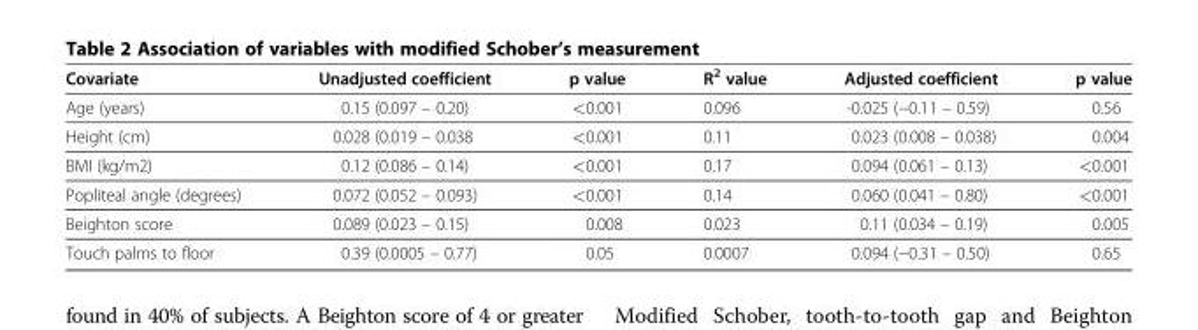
<table><thead><tr><td>Covariate</td><td>Unadjusted coefficient</td><td>p value</td><td>R<sup>2</sup> value</td><td>Adjusted coefficient</td><td>p value</td></tr></thead><tbody><tr><td>Age (years)</td><td>0.15 (0.097 – 0.20)</td><td>&lt;0.001</td><td>0.096</td><td>-0.025 (−0.11 – 0.59)</td><td>0.56</td></tr><tr><td>Height (cm)</td><td>0.028 (0.019 – 0.038</td><td>&lt;0.001</td><td>0.11</td><td>0.023 (0.008 – 0.038)</td><td>0.004</td></tr><tr><td>BMI (kg/m2)</td><td>0.12 (0.086 – 0.14)</td><td>&lt;0.001</td><td>0.17</td><td>0.094 (0.061 – 0.13)</td><td>&lt;0.001</td></tr><tr><td>Popliteal angle (degrees)</td><td>0.072 (0.052 – 0.093)</td><td>&lt;0.001</td><td>0.14</td><td>0.060 (0.041 – 0.80)</td><td>&lt;0.001</td></tr><tr><td>Beighton score</td><td>0.089 (0.023 – 0.15)</td><td>0.008</td><td>0.023</td><td>0.11 (0.034 – 0.19)</td><td>0.005</td></tr><tr><td>Touch palms to floor</td><td>0.39 (0.0005 – 0.77)</td><td>0.05</td><td>0.0007</td><td>0.094 (−0.31 – 0.50)</td><td>0.65</td></tr></tbody></table>